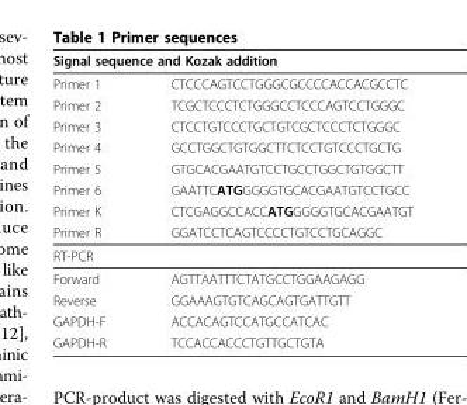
<table><thead><tr><td colspan="2">Signal sequence and Kozak addition</td></tr><tr><td>Primer 1</td><td>CTCCCAGTCCTGGGCGCCCCACCACGCCTC</td></tr></thead><tbody><tr><td>Primer 2</td><td>TCGCTCCCTCTGGGCCTCCCAGTCCTGGGC</td></tr><tr><td>Primer 3</td><td>CTCCTGTCCCTGCTGTCGCTCCCTCTGGGC</td></tr><tr><td>Primer 4</td><td>GCCTGGCTGTGGCTTCTCCTGTCCCTGCTG</td></tr><tr><td>Primer 5</td><td>GTGCACGAATGTCCTGCCTGGCTGTGGCTT</td></tr><tr><td>Primer 6</td><td>GAATTCATGGGGGTGCACGAATGTCCTGCC</td></tr><tr><td>Primer K</td><td>CTCGAGGCCACCATGGGGGTGCACGAATGT</td></tr><tr><td>Primer R</td><td>GGATCCTCAGTCCCCTGTCCTGCAGGC</td></tr><tr><td colspan="2">RT-PCR</td></tr><tr><td>Forward</td><td>AGTTAATTTCTATGCCTGGAAGAGG</td></tr><tr><td>Reverse</td><td>GGAAAGTGTCAGCAGTGATTGTT</td></tr><tr><td>GAPDH-F</td><td>ACCACAGTCCATGCCATCAC</td></tr><tr><td>GAPDH-R</td><td>TCCACCACCCTGTTGCTGTA</td></tr></tbody></table>